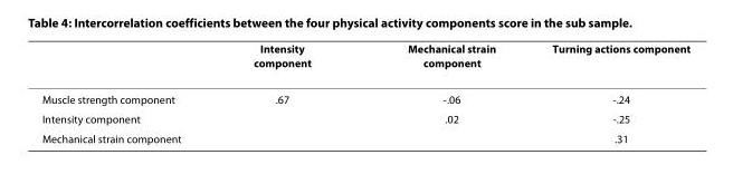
<table><thead><tr><td></td><td>Intensity component</td><td>Mechanical strain component</td><td>Turning actions component</td></tr></thead><tbody><tr><td>Muscle strength component</td><td>.67</td><td>-.06</td><td>-.24</td></tr><tr><td>Intensity component</td><td></td><td>.02</td><td>-.25</td></tr><tr><td>Mechanical strain component</td><td></td><td></td><td>.31</td></tr></tbody></table>